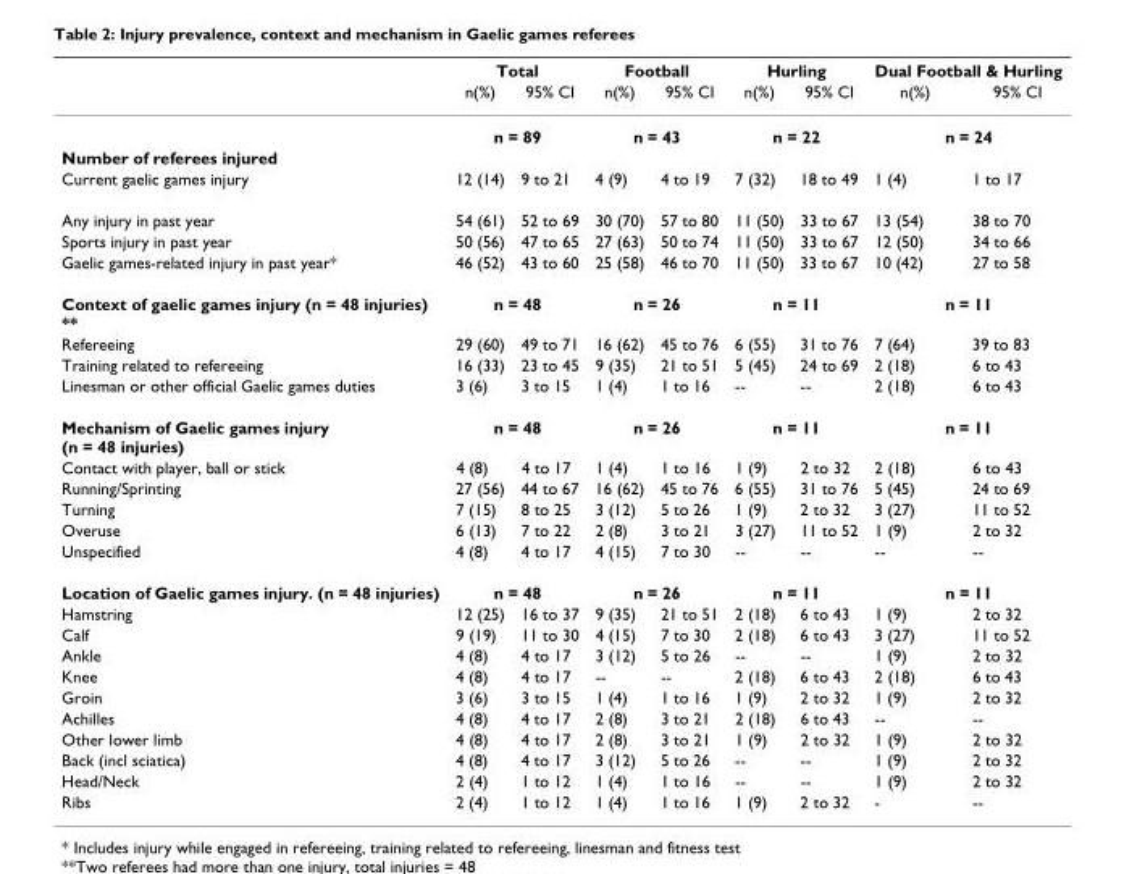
<table><thead><tr><td rowspan="2"></td><td colspan="2">Total</td><td colspan="2">Football</td><td colspan="2">Hurling</td><td colspan="2">Dual Football &amp; Hurling</td></tr><tr><td>n(%)</td><td>95% CI</td><td>n(%)</td><td>95% CI</td><td>n(%)</td><td>95% CI</td><td>n(%)</td><td>95% CI</td></tr></thead><tbody><tr><td></td><td colspan="2">n = 89</td><td colspan="2">n = 43</td><td colspan="2">n = 22</td><td colspan="2">n = 24</td></tr><tr><td colspan="9">Number of referees injured</td></tr><tr><td>Current gaelic games injury</td><td>12 (14)</td><td>9 to 21</td><td>4 (9)</td><td>4 to 19</td><td>7 (32)</td><td>18 to 49</td><td>1 (4)</td><td>1 to 17</td></tr><tr><td>Any injury in past year</td><td>54 (61)</td><td>52 to 69</td><td>30 (70)</td><td>57 to 80</td><td>11 (50)</td><td>33 to 67</td><td>13 (54)</td><td>38 to 70</td></tr><tr><td>Sports injury in past year</td><td>50 (56)</td><td>47 to 65</td><td>27 (63)</td><td>50 to 74</td><td>11 (50)</td><td>33 to 67</td><td>12 (50)</td><td>34 to 66</td></tr><tr><td>Gaelic games-related injury in past year*</td><td>46 (52)</td><td>43 to 60</td><td>25 (58)</td><td>46 to 70</td><td>11 (50)</td><td>33 to 67</td><td>10 (42)</td><td>27 to 58</td></tr><tr><td>Context of gaelic games injury (n = 48 injuries) **</td><td colspan="2">n = 48</td><td colspan="2">n = 26</td><td colspan="2">n = 11</td><td colspan="2">n = 11</td></tr><tr><td>Refereeing</td><td>29 (60)</td><td>49 to 71</td><td>16 (62)</td><td>45 to 76</td><td>6 (55)</td><td>31 to 76</td><td>7 (64)</td><td>39 to 83</td></tr><tr><td>Training related to refereeing</td><td>16 (33)</td><td>23 to 45</td><td>9 (35)</td><td>21 to 51</td><td>5 (45)</td><td>24 to 69</td><td>2 (18)</td><td>6 to 43</td></tr><tr><td>Linesman or other official Gaelic games duties</td><td>3 (6)</td><td>3 to 15</td><td>1 (4)</td><td>1 to 16</td><td>--</td><td>--</td><td>2 (18)</td><td>6 to 43</td></tr><tr><td>Mechanism of Gaelic games injury (n = 48 injuries)</td><td colspan="2">n = 48</td><td colspan="2">n = 26</td><td colspan="2">n = 11</td><td colspan="2">n = 11</td></tr><tr><td>Contact with player, ball or stick</td><td>4 (8)</td><td>4 to 17</td><td>1 (4)</td><td>1 to 16</td><td>1 (9)</td><td>2 to 32</td><td>2 (18)</td><td>6 to 43</td></tr><tr><td>Running/Sprinting</td><td>27 (56)</td><td>44 to 67</td><td>16 (62)</td><td>45 to 76</td><td>6 (55)</td><td>31 to 76</td><td>5 (45)</td><td>24 to 69</td></tr><tr><td>Turning</td><td>7 (15)</td><td>8 to 25</td><td>3 (12)</td><td>5 to 26</td><td>1 (9)</td><td>2 to 32</td><td>3 (27)</td><td>11 to 52</td></tr><tr><td>Overuse</td><td>6 (13)</td><td>7 to 22</td><td>2 (8)</td><td>3 to 21</td><td>3 (27)</td><td>11 to 52</td><td>1 (9)</td><td>2 to 32</td></tr><tr><td>Unspecified</td><td>4 (8)</td><td>4 to 17</td><td>4 (15)</td><td>7 to 30</td><td>--</td><td>--</td><td>--</td><td>--</td></tr><tr><td>Location of Gaelic games injury. (n = 48 injuries)</td><td colspan="2">n = 48</td><td colspan="2">n = 26</td><td colspan="2">n = 11</td><td colspan="2">n = 11</td></tr><tr><td>Hamstring</td><td>12 (25)</td><td>16 to 37</td><td>9 (35)</td><td>21 to 51</td><td>2 (18)</td><td>6 to 43</td><td>1 (9)</td><td>2 to 32</td></tr><tr><td>Calf</td><td>9 (19)</td><td>11 to 30</td><td>4 (15)</td><td>7 to 30</td><td>2 (18)</td><td>6 to 43</td><td>3 (27)</td><td>11 to 52</td></tr><tr><td>Ankle</td><td>4 (8)</td><td>4 to 17</td><td>3 (12)</td><td>5 to 26</td><td>--</td><td>--</td><td>1 (9)</td><td>2 to 32</td></tr><tr><td>Knee</td><td>4 (8)</td><td>4 to 17</td><td>--</td><td>--</td><td>2 (18)</td><td>6 to 43</td><td>2 (18)</td><td>6 to 43</td></tr><tr><td>Groin</td><td>3 (6)</td><td>3 to 15</td><td>1 (4)</td><td>1 to 16</td><td>1 (9)</td><td>2 to 32</td><td>1 (9)</td><td>2 to 32</td></tr><tr><td>Achilles</td><td>4 (8)</td><td>4 to 17</td><td>2 (8)</td><td>3 to 21</td><td>2 (18)</td><td>6 to 43</td><td>--</td><td>--</td></tr><tr><td>Other lower limb</td><td>4 (8)</td><td>4 to 17</td><td>2 (8)</td><td>3 to 21</td><td>1 (9)</td><td>2 to 32</td><td>1 (9)</td><td>2 to 32</td></tr><tr><td>Back (incl sciatica)</td><td>4 (8)</td><td>4 to 17</td><td>3 (12)</td><td>5 to 26</td><td>--</td><td>--</td><td>1 (9)</td><td>2 to 32</td></tr><tr><td>Head/Neck</td><td>2 (4)</td><td>1 to 12</td><td>1 (4)</td><td>1 to 16</td><td>--</td><td>--</td><td>1 (9)</td><td>2 to 32</td></tr><tr><td>Ribs</td><td>2 (4)</td><td>1 to 12</td><td>1 (4)</td><td>1 to 16</td><td>1 (9)</td><td>2 to 32</td><td>-</td><td>--</td></tr></tbody></table>